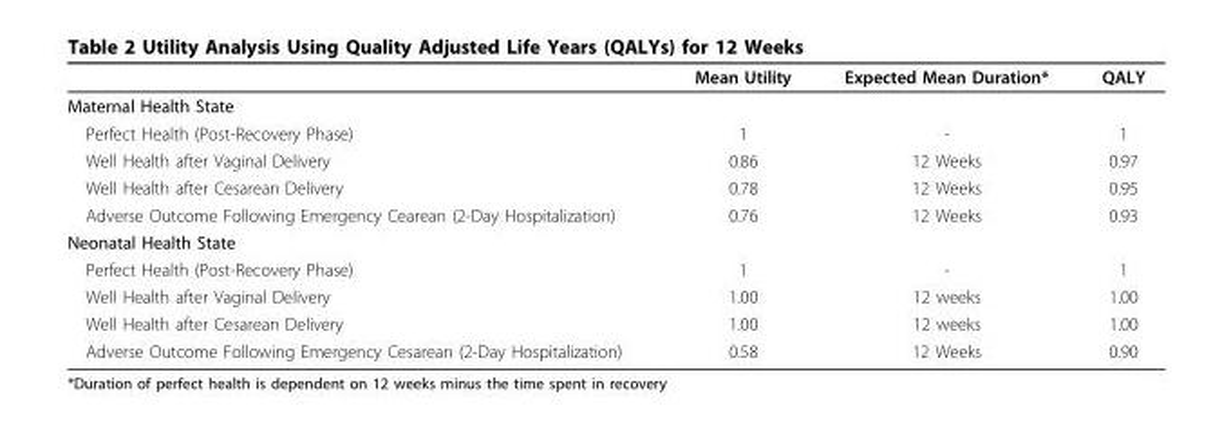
<table><thead><tr><td></td><td>Mean Utility</td><td>Expected Mean Duration*</td><td>QALY</td></tr></thead><tbody><tr><td colspan="4">Maternal Health State</td></tr><tr><td>Perfect Health (Post-Recovery Phase)</td><td>1</td><td>-</td><td>1</td></tr><tr><td>Well Health after Vaginal Delivery</td><td>0.86</td><td>12 Weeks</td><td>0.97</td></tr><tr><td>Well Health after Cesarean Delivery</td><td>0.78</td><td>12 Weeks</td><td>0.95</td></tr><tr><td>Adverse Outcome Following Emergency Cearean (2-Day Hospitalization)</td><td>0.76</td><td>12 Weeks</td><td>0.93</td></tr><tr><td colspan="4">Neonatal Health State</td></tr><tr><td>Perfect Health (Post-Recovery Phase)</td><td>1</td><td>-</td><td>1</td></tr><tr><td>Well Health after Vaginal Delivery</td><td>1.00</td><td>12 weeks</td><td>1.00</td></tr><tr><td>Well Health after Cesarean Delivery</td><td>1.00</td><td>12 weeks</td><td>1.00</td></tr><tr><td>Adverse Outcome Following Emergency Cesarean (2-Day Hospitalization)</td><td>0.58</td><td>12 Weeks</td><td>0.90</td></tr></tbody></table>